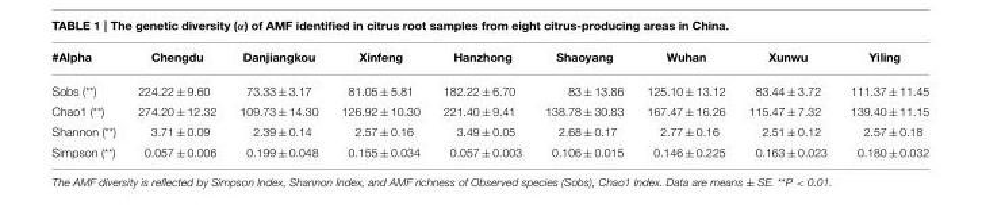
<table><thead><tr><td>#Alpha</td><td>Chengdu</td><td>Danjiangkou</td><td>Xinfeng</td><td>Hanzhong</td><td>Shaoyang</td><td>Wuhan</td><td>Xunwu</td><td>Yiling</td></tr></thead><tbody><tr><td>Sobs (**)</td><td>224.22 ± 9.60</td><td>73.33 ± 3.17</td><td>81.05 ± 5.81</td><td>182.22 ± 6.70</td><td>83 ± 13.86</td><td>125.10 ± 13.12</td><td>83.44 ± 3.72</td><td>111.37 ± 11.45</td></tr><tr><td>Chao1 (**)</td><td>274.20 ± 12.32</td><td>109.73 ± 14.30</td><td>126.92 ± 10.30</td><td>221.40 ± 9.41</td><td>138.78 ± 30.83</td><td>167.47 ± 16.26</td><td>115.47 ± 7.32</td><td>139.40 ± 11.15</td></tr><tr><td>Shannon (**)</td><td>3.71 ± 0.09</td><td>2.39 ± 0.14</td><td>2.57 ± 0.16</td><td>3.49 ± 0.05</td><td>2.68 ± 0.17</td><td>2.77 ± 0.16</td><td>2.51 ± 0.12</td><td>2.57 ± 0.18</td></tr><tr><td>Simpson (**)</td><td>0.057 ± 0.006</td><td>0.199 ± 0.048</td><td>0.155 ± 0.034</td><td>0.057 ± 0.003</td><td>0.106 ± 0.015</td><td>0.146 ± 0.225</td><td>0.163 ± 0.023</td><td>0.180 ± 0.032</td></tr></tbody></table>